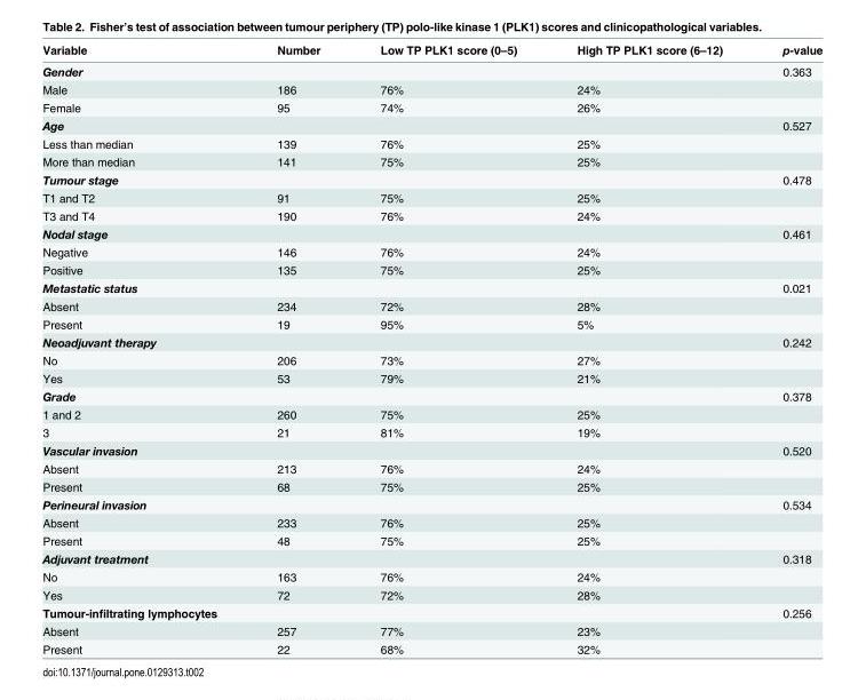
<table><thead><tr><td>Variable</td><td>Number</td><td>Low TP PLK1 score (0–5)</td><td>High TP PLK1 score (6–12)</td><td>p-value</td></tr></thead><tbody><tr><td>Gender</td><td></td><td></td><td></td><td>0.363</td></tr><tr><td>Male</td><td>186</td><td>76%</td><td>24%</td><td></td></tr><tr><td>Female</td><td>95</td><td>74%</td><td>26%</td><td></td></tr><tr><td>Age</td><td></td><td></td><td></td><td>0.527</td></tr><tr><td>Less than median</td><td>139</td><td>76%</td><td>25%</td><td></td></tr><tr><td>More than median</td><td>141</td><td>75%</td><td>25%</td><td></td></tr><tr><td>Tumour stage</td><td></td><td></td><td></td><td>0.478</td></tr><tr><td>T1 and T2</td><td>91</td><td>75%</td><td>25%</td><td></td></tr><tr><td>T3 and T4</td><td>190</td><td>76%</td><td>24%</td><td></td></tr><tr><td>Nodal stage</td><td></td><td></td><td></td><td>0.461</td></tr><tr><td>Negative</td><td>146</td><td>76%</td><td>24%</td><td></td></tr><tr><td>Positive</td><td>135</td><td>75%</td><td>25%</td><td></td></tr><tr><td>Metastatic status</td><td></td><td></td><td></td><td>0.021</td></tr><tr><td>Absent</td><td>234</td><td>72%</td><td>28%</td><td></td></tr><tr><td>Present</td><td>19</td><td>95%</td><td>5%</td><td></td></tr><tr><td>Neoadjuvant therapy</td><td></td><td></td><td></td><td>0.242</td></tr><tr><td>No</td><td>206</td><td>73%</td><td>27%</td><td></td></tr><tr><td>Yes</td><td>53</td><td>79%</td><td>21%</td><td></td></tr><tr><td>Grade</td><td></td><td></td><td></td><td>0.378</td></tr><tr><td>1 and 2</td><td>260</td><td>75%</td><td>25%</td><td></td></tr><tr><td>3</td><td>21</td><td>81%</td><td>19%</td><td></td></tr><tr><td>Vascular invasion</td><td></td><td></td><td></td><td>0.520</td></tr><tr><td>Absent</td><td>213</td><td>76%</td><td>24%</td><td></td></tr><tr><td>Present</td><td>68</td><td>75%</td><td>25%</td><td></td></tr><tr><td>Perineural invasion</td><td></td><td></td><td></td><td>0.534</td></tr><tr><td>Absent</td><td>233</td><td>76%</td><td>25%</td><td></td></tr><tr><td>Present</td><td>48</td><td>75%</td><td>25%</td><td></td></tr><tr><td>Adjuvant treatment</td><td></td><td></td><td></td><td>0.318</td></tr><tr><td>No</td><td>163</td><td>76%</td><td>24%</td><td></td></tr><tr><td>Yes</td><td>72</td><td>72%</td><td>28%</td><td></td></tr><tr><td>Tumour-infiltrating lymphocytes</td><td></td><td></td><td></td><td>0.256</td></tr><tr><td>Absent</td><td>257</td><td>77%</td><td>23%</td><td></td></tr><tr><td>Present</td><td>22</td><td>68%</td><td>32%</td><td></td></tr></tbody></table>